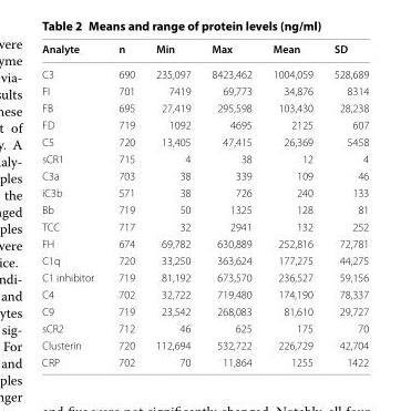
<table><thead><tr><td>Analyte</td><td>n</td><td>Min</td><td>Max</td><td>Mean</td><td>SD</td></tr></thead><tbody><tr><td>C3</td><td>690</td><td>235,097</td><td>8423,462</td><td>1004,059</td><td>528,689</td></tr><tr><td>FI</td><td>701</td><td>7419</td><td>69,773</td><td>34,876</td><td>8314</td></tr><tr><td>FB</td><td>695</td><td>27,419</td><td>295,598</td><td>103,430</td><td>28,238</td></tr><tr><td>FD</td><td>719</td><td>1092</td><td>4695</td><td>2125</td><td>607</td></tr><tr><td>C5</td><td>720</td><td>13,405</td><td>47,415</td><td>26,369</td><td>5458</td></tr><tr><td>sCR1</td><td>715</td><td>4</td><td>38</td><td>12</td><td>4</td></tr><tr><td>C3a</td><td>703</td><td>38</td><td>339</td><td>109</td><td>46</td></tr><tr><td>iC3b</td><td>571</td><td>38</td><td>726</td><td>240</td><td>133</td></tr><tr><td>Bb</td><td>719</td><td>50</td><td>1325</td><td>128</td><td>81</td></tr><tr><td>TCC</td><td>717</td><td>32</td><td>2941</td><td>132</td><td>252</td></tr><tr><td>FH</td><td>674</td><td>69,782</td><td>630,889</td><td>252,816</td><td>72,781</td></tr><tr><td>C1q</td><td>720</td><td>33,250</td><td>363,624</td><td>177,275</td><td>44,275</td></tr><tr><td>C1 inhibitor</td><td>719</td><td>81,192</td><td>673,570</td><td>236,527</td><td>59,156</td></tr><tr><td>C4</td><td>702</td><td>32,722</td><td>719,480</td><td>174,190</td><td>78,337</td></tr><tr><td>C9</td><td>719</td><td>23,542</td><td>268,083</td><td>81,610</td><td>29,727</td></tr><tr><td>sCR2</td><td>712</td><td>46</td><td>625</td><td>175</td><td>70</td></tr><tr><td>Clusterin</td><td>720</td><td>112,694</td><td>532,722</td><td>226,729</td><td>42,704</td></tr><tr><td>CRP</td><td>702</td><td>70</td><td>11,864</td><td>1255</td><td>1422</td></tr></tbody></table>